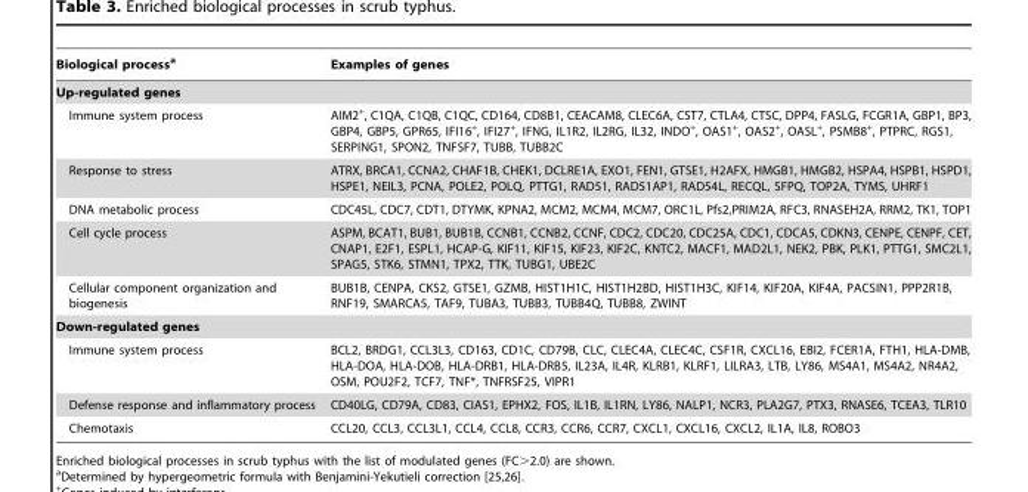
<table><thead><tr><td>Biological process<sup>a</sup></td><td>Examples of genes</td></tr></thead><tbody><tr><td colspan="2">Up-regulated genes</td></tr><tr><td>Immune system process</td><td>AIM2+, C1QA, C1QB, C1QC, CD164, CD8B1, CEACAM8, CLEC6A, CST7, CTLA4, CTSC, DPP4, FASLG, FCGR1A, GBP1, BP3, GBP4, GBP5, GPR65, IFI16+, IFI27+, IFNG, IL1R2, IL2RG, IL32, INDO+, OAS1+, OAS2+, OASL+, PSMB8+, PTPRC, RGS1, SERPING1, SPON2, TNFSF7, TUBB, TUBB2C</td></tr><tr><td>Response to stress</td><td>ATRX, BRCA1, CCNA2, CHAF1B, CHEK1, DCLRE1A, EXO1, FEN1, GTSE1, H2AFX, HMGB1, HMGB2, HSPA4, HSPB1, HSPD1, HSPE1, NEIL3, PCNA, POLE2, POLQ, PTTG1, RAD51, RAD51AP1, RAD54L, RECQL, SFPQ, TOP2A, TYMS, UHRF1</td></tr><tr><td>DNA metabolic process</td><td>CDC45L, CDC7, CDT1, DTYMK, KPNA2, MCM2, MCM4, MCM7, ORC1L, Pfs2,PRIM2A, RFC3, RNASEH2A, RRM2, TK1, TOP1</td></tr><tr><td>Cell cycle process</td><td>ASPM, BCAT1, BUB1, BUB1B, CCNB1, CCNB2, CCNF, CDC2, CDC20, CDC25A, CDC1, CDCA5, CDKN3, CENPE, CENPF, CET, CNAP1, E2F1, ESPL1, HCAP-G, KIF11, KIF15, KIF23, KIF2C, KNTC2, MACF1, MAD2L1, NEK2, PBK, PLK1, PTTG1, SMC2L1, SPAG5, STK6, STMN1, TPX2, TTK, TUBG1, UBE2C</td></tr><tr><td>Cellular component organization and biogenesis</td><td>BUB1B, CENPA, CKS2, GTSE1, GZMB, HIST1H1C, HIST1H2BD, HIST1H3C, KIF14, KIF20A, KIF4A, PACSIN1, PPP2R1B, RNF19, SMARCA5, TAF9, TUBA3, TUBB3, TUBB4Q, TUBB8, ZWINT</td></tr><tr><td colspan="2">Down-regulated genes</td></tr><tr><td>Immune system process</td><td>BCL2, BRDG1, CCL3L3, CD163, CD1C, CD79B, CLC, CLEC4A, CLEC4C, CSF1R, CXCL16, EBI2, FCER1A, FTH1, HLA-DMB, HLA-DOA, HLA-DOB, HLA-DRB1, HLA-DRB5, IL23A, IL4R, KLRB1, KLRF1, LILRA3, LTB, LY86, MS4A1, MS4A2, NR4A2, OSM, POU2F2, TCF7, TNF*, TNFRSF25, VIPR1</td></tr><tr><td>Defense response and inflammatory process</td><td>CD40LG, CD79A, CD83, CIAS1, EPHX2, FOS, IL1B, IL1RN, LY86, NALP1, NCR3, PLA2G7, PTX3, RNASE6, TCEA3, TLR10</td></tr><tr><td>Chemotaxis</td><td>CCL20, CCL3, CCL3L1, CCL4, CCL8, CCR3, CCR6, CCR7, CXCL1, CXCL16, CXCL2, IL1A, IL8, ROBO3</td></tr></tbody></table>